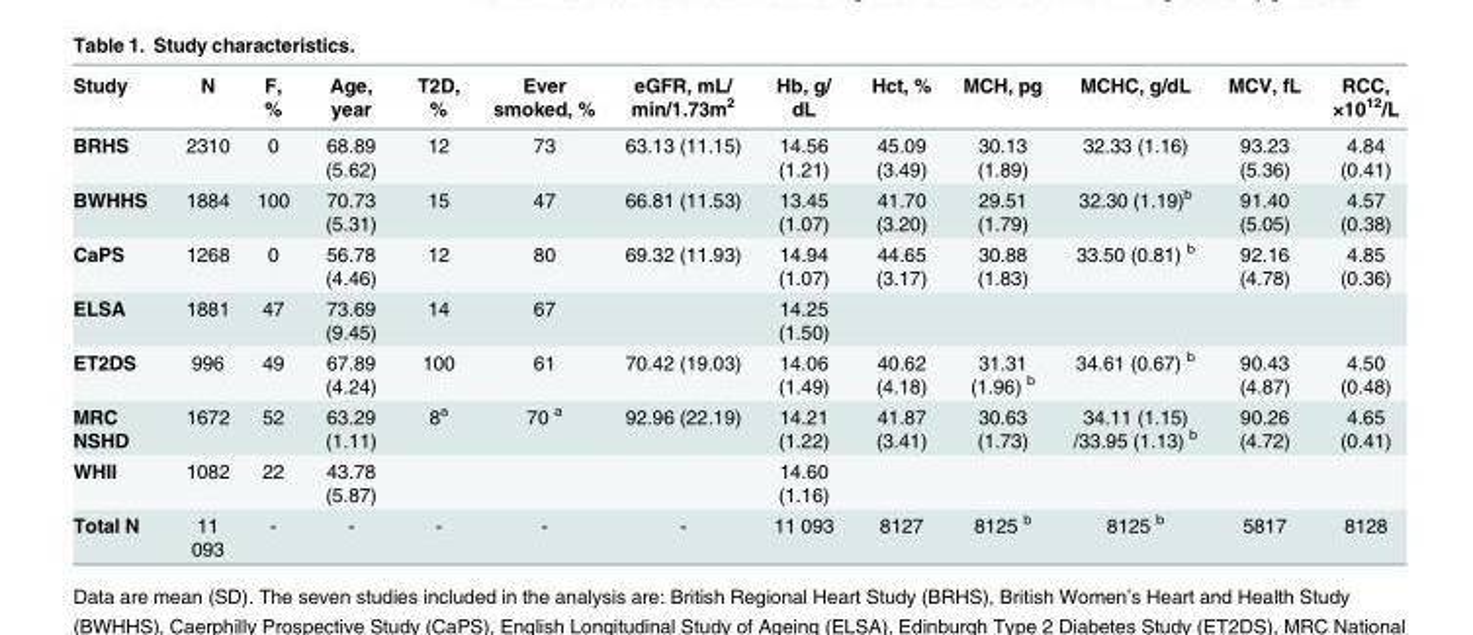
<table><thead><tr><td>Study</td><td>N</td><td>F, %</td><td>Age, year</td><td>T2D, %</td><td>Ever smoked, %</td><td>eGFR, mL/ min/1.73m<sup>2</sup></td><td>Hb, g/ dL</td><td>Hct, %</td><td>MCH, pg</td><td>MCHC, g/dL</td><td>MCV, fL</td><td>RCC, ×10<sup>12</sup>/L</td></tr></thead><tbody><tr><td>BRHS</td><td>2310</td><td>0</td><td>68.89 (5.62)</td><td>12</td><td>73</td><td>63.13 (11.15)</td><td>14.56 (1.21)</td><td>45.09 (3.49)</td><td>30.13 (1.89)</td><td>32.33 (1.16)</td><td>93.23 (5.36)</td><td>4.84 (0.41)</td></tr><tr><td>BWHHS</td><td>1884</td><td>100</td><td>70.73 (5.31)</td><td>15</td><td>47</td><td>66.81 (11.53)</td><td>13.45 (1.07)</td><td>41.70 (3.20)</td><td>29.51 (1.79)</td><td>32.30 (1.19)<sup>b</sup></td><td>91.40 (5.05)</td><td>4.57 (0.38)</td></tr><tr><td>CaPS</td><td>1268</td><td>0</td><td>56.78 (4.46)</td><td>12</td><td>80</td><td>69.32 (11.93)</td><td>14.94 (1.07)</td><td>44.65 (3.17)</td><td>30.88 (1.83)</td><td>33.50 (0.81) <sup>b</sup></td><td>92.16 (4.78)</td><td>4.85 (0.36)</td></tr><tr><td>ELSA</td><td>1881</td><td>47</td><td>73.69 (9.45)</td><td>14</td><td>67</td><td></td><td>14.25 (1.50)</td><td></td><td></td><td></td><td></td><td></td></tr><tr><td>ET2DS</td><td>996</td><td>49</td><td>67.89 (4.24)</td><td>100</td><td>61</td><td>70.42 (19.03)</td><td>14.06 (1.49)</td><td>40.62 (4.18)</td><td>31.31 (1.96) <sup>b</sup></td><td>34.61 (0.67) <sup>b</sup></td><td>90.43 (4.87)</td><td>4.50 (0.48)</td></tr><tr><td>MRC NSHD</td><td>1672</td><td>52</td><td>63.29 (1.11)</td><td>8<sup>a</sup></td><td>70 <sup>a</sup></td><td>92.96 (22.19)</td><td>14.21 (1.22)</td><td>41.87 (3.41)</td><td>30.63 (1.73)</td><td>34.11 (1.15) /33.95 (1.13) <sup>b</sup></td><td>90.26 (4.72)</td><td>4.65 (0.41)</td></tr><tr><td>WHII</td><td>1082</td><td>22</td><td>43.78 (5.87)</td><td></td><td></td><td></td><td>14.60 (1.16)</td><td></td><td></td><td></td><td></td><td></td></tr><tr><td>Total N</td><td>11 093</td><td>-</td><td>-</td><td>-</td><td>-</td><td>-</td><td>11 093</td><td>8127</td><td>8125 <sup>b</sup></td><td>8125 <sup>b</sup></td><td>5817</td><td>8128</td></tr></tbody></table>